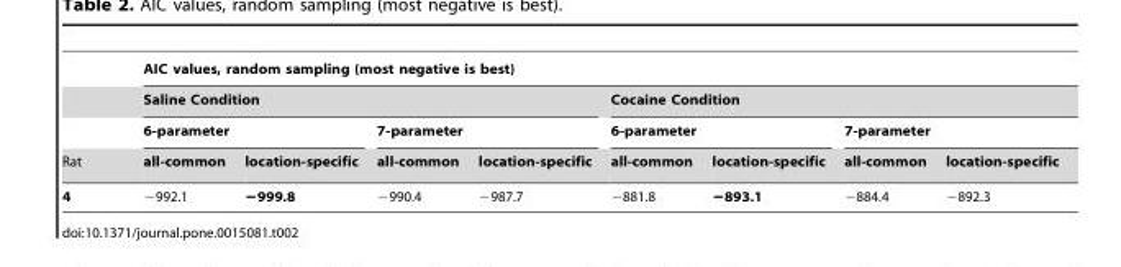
<table><thead><tr><td rowspan="4">Rat</td><td colspan="8">AIC values, random sampling (most negative is best)</td></tr><tr><td colspan="4">Saline Condition</td><td colspan="4">Cocaine Condition</td></tr><tr><td colspan="2">6-parameter</td><td colspan="2">7-parameter</td><td colspan="2">6-parameter</td><td colspan="2">7-parameter</td></tr><tr><td>all-common</td><td>location-specific</td><td>all-common</td><td>location-specific</td><td>all-common</td><td>location-specific</td><td>all-common</td><td>location-specific</td></tr></thead><tbody><tr><td>4</td><td>−992.1</td><td>−999.8</td><td>−990.4</td><td>−987.7</td><td>−881.8</td><td>−893.1</td><td>−884.4</td><td>−892.3</td></tr></tbody></table>